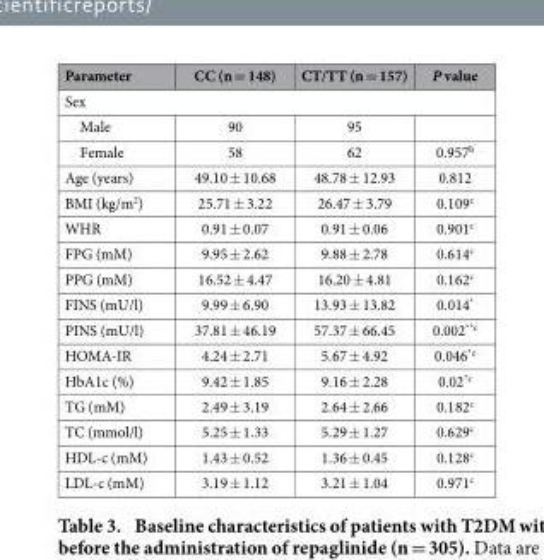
<table><thead><tr><td>Parameter</td><td>CC (n = 148)</td><td>CT/TT (n = 157)</td><td>P value</td></tr></thead><tbody><tr><td colspan="4">Sex</td></tr><tr><td>Male</td><td>90</td><td>95</td><td></td></tr><tr><td>Female</td><td>58</td><td>62</td><td>0.957<sup>b</sup></td></tr><tr><td>Age (years)</td><td>49.10 ± 10.68</td><td>48.78 ± 12.93</td><td>0.812</td></tr><tr><td>BMI (kg/m<sup>2</sup>)</td><td>25.71 ± 3.22</td><td>26.47 ± 3.79</td><td>0.109<sup>c</sup></td></tr><tr><td>WHR</td><td>0.91 ± 0.07</td><td>0.91 ± 0.06</td><td>0.901<sup>c</sup></td></tr><tr><td>FPG (mM)</td><td>9.95 ± 2.62</td><td>9.88 ± 2.78</td><td>0.614<sup>c</sup></td></tr><tr><td>PPG (mM)</td><td>16.52 ± 4.47</td><td>16.20 ± 4.81</td><td>0.162<sup>c</sup></td></tr><tr><td>FINS (mU/l)</td><td>9.99 ± 6.90</td><td>13.93 ± 13.82</td><td>0.014*</td></tr><tr><td>PINS (mU/l)</td><td>37.81 ± 46.19</td><td>57.37 ± 66.45</td><td>0.002<sup>**c</sup></td></tr><tr><td>HOMA-IR</td><td>4.24 ± 2.71</td><td>5.67 ± 4.92</td><td>0.046<sup>*c</sup></td></tr><tr><td>HbA1c (%)</td><td>9.42 ± 1.85</td><td>9.16 ± 2.28</td><td>0.02<sup>*c</sup></td></tr><tr><td>TG (mM)</td><td>2.49 ± 3.19</td><td>2.64 ± 2.66</td><td>0.182<sup>c</sup></td></tr><tr><td>TC (mmol/l)</td><td>5.25 ± 1.33</td><td>5.29 ± 1.27</td><td>0.629<sup>c</sup></td></tr><tr><td>HDL-c (mM)</td><td>1.43 ± 0.52</td><td>1.36 ± 0.45</td><td>0.128<sup>c</sup></td></tr><tr><td>LDL-c (mM)</td><td>3.19 ± 1.12</td><td>3.21 ± 1.04</td><td>0.971<sup>c</sup></td></tr></tbody></table>